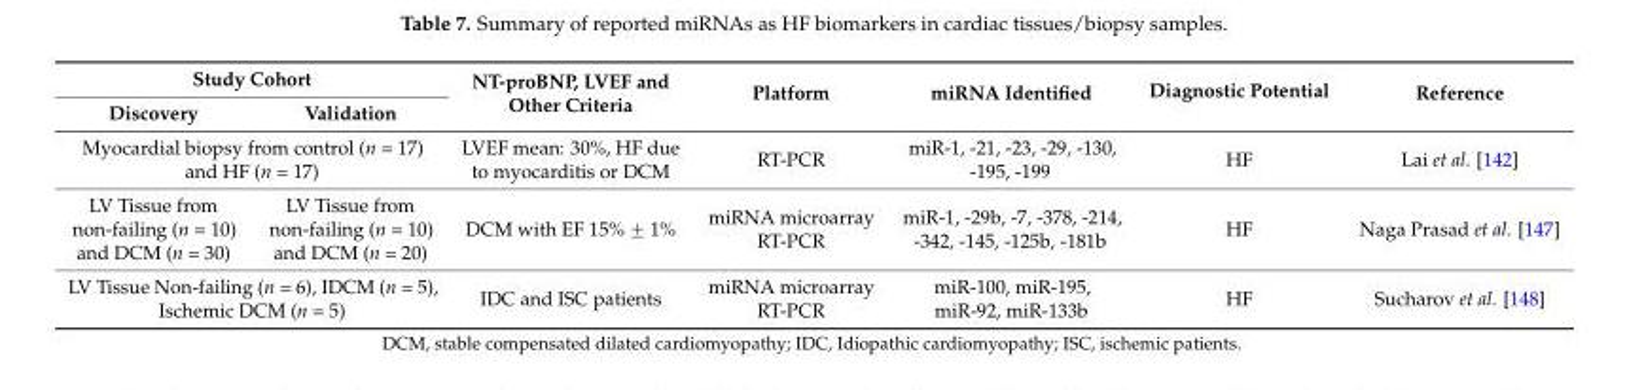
<table><thead><tr><td colspan="2">Study Cohort</td><td rowspan="2">NT-proBNP, LVEF and Other Criteria</td><td rowspan="2">Platform</td><td rowspan="2">miRNA Identified</td><td rowspan="2">Diagnostic Potential</td><td rowspan="2">Reference</td></tr><tr><td>Discovery</td><td>Validation</td></tr></thead><tbody><tr><td colspan="2">Myocardial biopsy from control (n = 17) and HF (n = 17)</td><td>LVEF mean: 30%, HF due to myocarditis or DCM</td><td>RT-PCR</td><td>miR-1, -21, -23, -29, -130, -195, -199</td><td>HF</td><td>Lai et al. [142]</td></tr><tr><td>LV Tissue from non-failing (n = 10) and DCM (n = 30)</td><td>LV Tissue from non-failing (n = 10) and DCM (n = 20)</td><td>DCM with EF 15% ˘ 1%</td><td>miRNA microarray RT-PCR</td><td>miR-1, -29b, -7, -378, -214, -342, -145, -125b, -181b</td><td>HF</td><td>Naga Prasad et al. [147]</td></tr><tr><td colspan="2">LV Tissue Non-failing (n = 6), IDCM (n = 5), Ischemic DCM (n = 5)</td><td>IDC and ISC patients</td><td>miRNA microarray RT-PCR</td><td>miR-100, miR-195, miR-92, miR-133b</td><td>HF</td><td>Sucharov et al. [148]</td></tr></tbody></table>